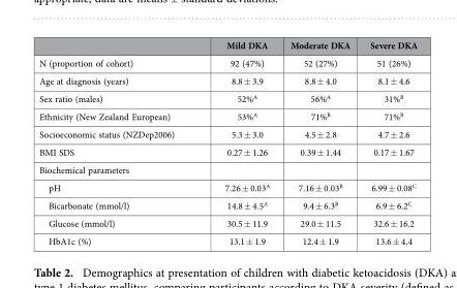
<table><thead><tr><td></td><td>Mild DKA</td><td>Moderate DKA</td><td>Severe DKA</td></tr></thead><tbody><tr><td>N (proportion of cohort)</td><td>92 (47%)</td><td>52 (27%)</td><td>51 (26%)</td></tr><tr><td>Age at diagnosis (years)</td><td>8.8 ± 3.9</td><td>8.8 ± 4.0</td><td>8.1 ± 4.6</td></tr><tr><td>Sex ratio (males)</td><td>52%<sup>A</sup></td><td>56%<sup>A</sup></td><td>31%<sup>B</sup></td></tr><tr><td>Ethnicity (New Zealand European)</td><td>53%<sup>A</sup></td><td>71%<sup>B</sup></td><td>71%<sup>B</sup></td></tr><tr><td>Socioeconomic status (NZDep2006)</td><td>5.3 ± 3.0</td><td>4.5 ± 2.8</td><td>4.7 ± 2.6</td></tr><tr><td>BMI SDS</td><td>0.27 ± 1.26</td><td>0.39 ± 1.44</td><td>0.17 ± 1.67</td></tr><tr><td colspan="4">Biochemical parameters</td></tr><tr><td>pH</td><td>7.26 ± 0.03<sup>A</sup></td><td>7.16 ± 0.03<sup>B</sup></td><td>6.99 ± 0.08<sup>C</sup></td></tr><tr><td>Bicarbonate (mmol/l)</td><td>14.8 ± 4.5<sup>A</sup></td><td>9.4 ± 6.3<sup>B</sup></td><td>6.9 ± 6.2<sup>C</sup></td></tr><tr><td>Glucose (mmol/l)</td><td>30.5 ± 11.9</td><td>29.0 ± 11.5</td><td>32.6 ± 16.2</td></tr><tr><td>HbA1c (%)</td><td>13.1 ± 1.9</td><td>12.4 ± 1.9</td><td>13.6 ± 4.4</td></tr></tbody></table>